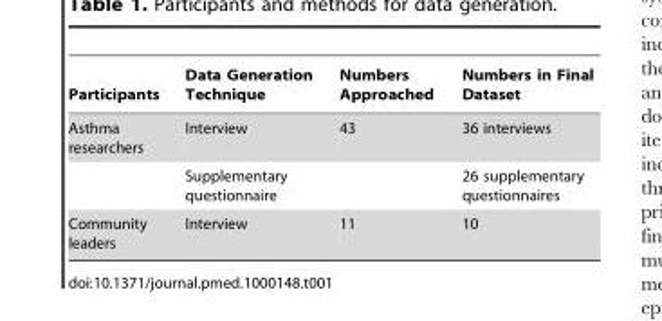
<table><thead><tr><td>Participants</td><td>Data Generation Technique</td><td>Numbers Approached</td><td>Numbers in Final Dataset</td></tr></thead><tbody><tr><td rowspan="2">Asthma researchers</td><td>Interview</td><td>43</td><td>36 interviews</td></tr><tr><td>Supplementary questionnaire</td><td></td><td>26 supplementary questionnaires</td></tr><tr><td>Community leaders</td><td>Interview</td><td>11</td><td>10</td></tr></tbody></table>